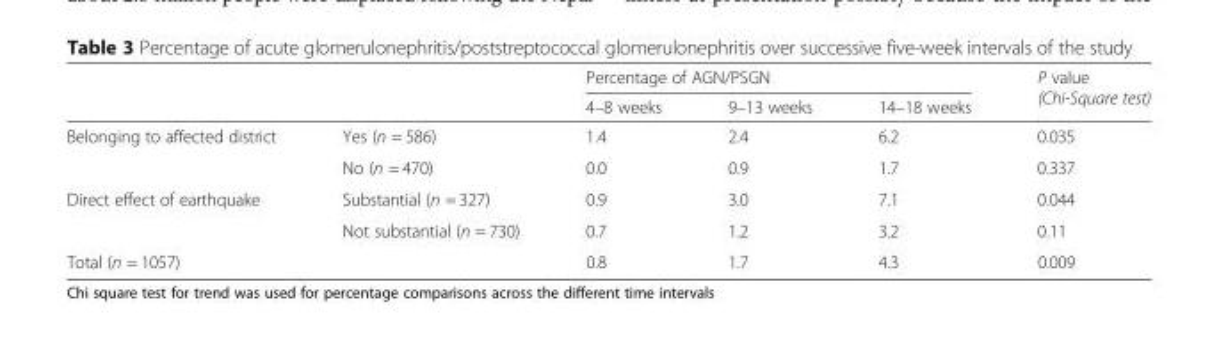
<table><thead><tr><td rowspan="2"></td><td rowspan="2"></td><td colspan="3">Percentage of AGN/PSGN</td><td rowspan="2">P value (Chi-Square test)</td></tr><tr><td>4–8 weeks</td><td>9–13 weeks</td><td>14–18 weeks</td></tr></thead><tbody><tr><td rowspan="2">Belonging to affected district</td><td>Yes (n = 586)</td><td>1.4</td><td>2.4</td><td>6.2</td><td>0.035</td></tr><tr><td>No (n = 470)</td><td>0.0</td><td>0.9</td><td>1.7</td><td>0.337</td></tr><tr><td rowspan="2">Direct effect of earthquake</td><td>Substantial (n = 327)</td><td>0.9</td><td>3.0</td><td>7.1</td><td>0.044</td></tr><tr><td>Not substantial (n = 730)</td><td>0.7</td><td>1.2</td><td>3.2</td><td>0.11</td></tr><tr><td colspan="2">Total (n = 1057)</td><td>0.8</td><td>1.7</td><td>4.3</td><td>0.009</td></tr></tbody></table>